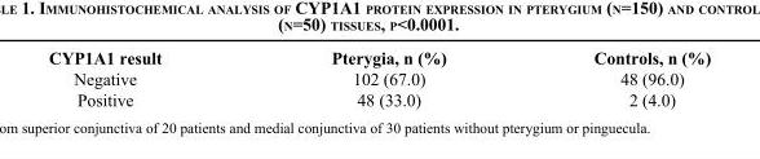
<table><thead><tr><td>CYP1A1 result</td><td>Pterygia, n (%)</td><td>Controls, n (%)</td></tr></thead><tbody><tr><td>Negative</td><td>102 (67.0)</td><td>48 (96.0)</td></tr><tr><td>Positive</td><td>48 (33.0)</td><td>2 (4.0)</td></tr></tbody></table>